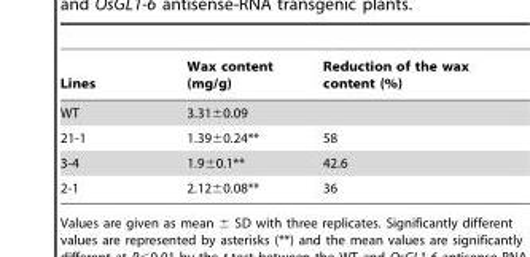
<table><thead><tr><td>Lines</td><td>Wax content (mg/g)</td><td>Reduction of the wax content (%)</td></tr></thead><tbody><tr><td>WT</td><td>3.31±0.09</td><td></td></tr><tr><td>21-1</td><td>1.39±0.24**</td><td>58</td></tr><tr><td>3-4</td><td>1.9±0.1**</td><td>42.6</td></tr><tr><td>2-1</td><td>2.12±0.08**</td><td>36</td></tr></tbody></table>